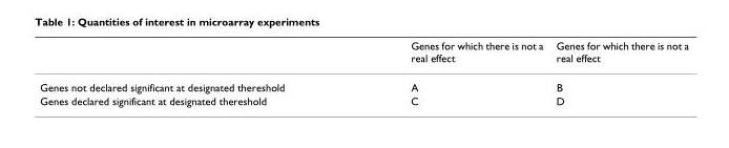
<table><thead><tr><td></td><td>Genes for which there is not a real effect</td><td>Genes for which there is not a real effect</td></tr></thead><tbody><tr><td>Genes not declared significant at designated thereshold</td><td>A</td><td>B</td></tr><tr><td>Genes declared significant at designated thereshold</td><td>C</td><td>D</td></tr></tbody></table>